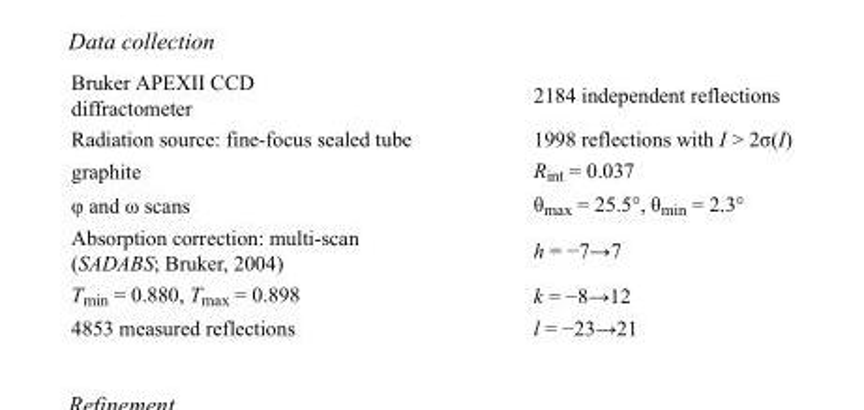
<table><tbody><tr><td>Bruker APEXII CCD diffractometer</td><td>2184 independent reflections</td></tr><tr><td>Radiation source: fine-focus sealed tube</td><td>1998 reflections with I &gt; 2σ(I)</td></tr><tr><td>graphite</td><td>R<sub>int</sub> = 0.037</td></tr><tr><td>φ and ω scans</td><td>θ<sub>max</sub> = 25.5°, θ<sub>min</sub> = 2.3°</td></tr><tr><td>Absorption correction: multi-scan (SADABS; Bruker, 2004)</td><td>h = −7→7</td></tr><tr><td>T<sub>min</sub> = 0.880, T<sub>max</sub> = 0.898</td><td>k = −8→12</td></tr><tr><td>4853 measured reflections</td><td>l = −23→21</td></tr></tbody></table>